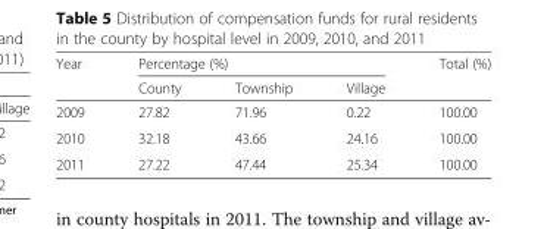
<table><thead><tr><td rowspan="2">Year</td><td colspan="3">Percentage (%)</td><td rowspan="2">Total (%)</td></tr><tr><td>County</td><td>Township</td><td>Village</td></tr></thead><tbody><tr><td>2009</td><td>27.82</td><td>71.96</td><td>0.22</td><td>100.00</td></tr><tr><td>2010</td><td>32.18</td><td>43.66</td><td>24.16</td><td>100.00</td></tr><tr><td>2011</td><td>27.22</td><td>47.44</td><td>25.34</td><td>100.00</td></tr></tbody></table>